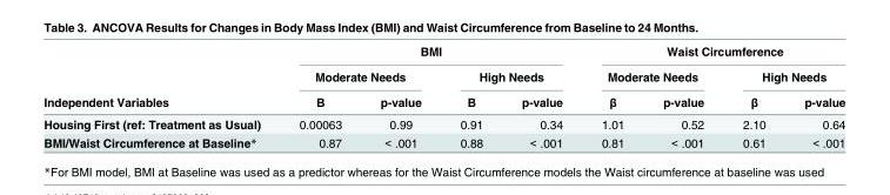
<table><thead><tr><td rowspan="3">Independent Variables</td><td colspan="4">BMI</td><td colspan="4">Waist Circumference</td></tr><tr><td colspan="2">Moderate Needs</td><td colspan="2">High Needs</td><td colspan="2">Moderate Needs</td><td colspan="2">High Needs</td></tr><tr><td>Β</td><td>p-value</td><td>Β</td><td>p-value</td><td>β</td><td>p-value</td><td>β</td><td>p-value</td></tr></thead><tbody><tr><td>Housing First (ref: Treatment as Usual)</td><td>0.00063</td><td>0.99</td><td>0.91</td><td>0.34</td><td>1.01</td><td>0.52</td><td>2.10</td><td>0.64</td></tr><tr><td>BMI/Waist Circumference at Baseline*</td><td>0.87</td><td>&lt; .001</td><td>0.88</td><td>&lt; .001</td><td>0.81</td><td>&lt; .001</td><td>0.61</td><td>&lt; .001</td></tr></tbody></table>